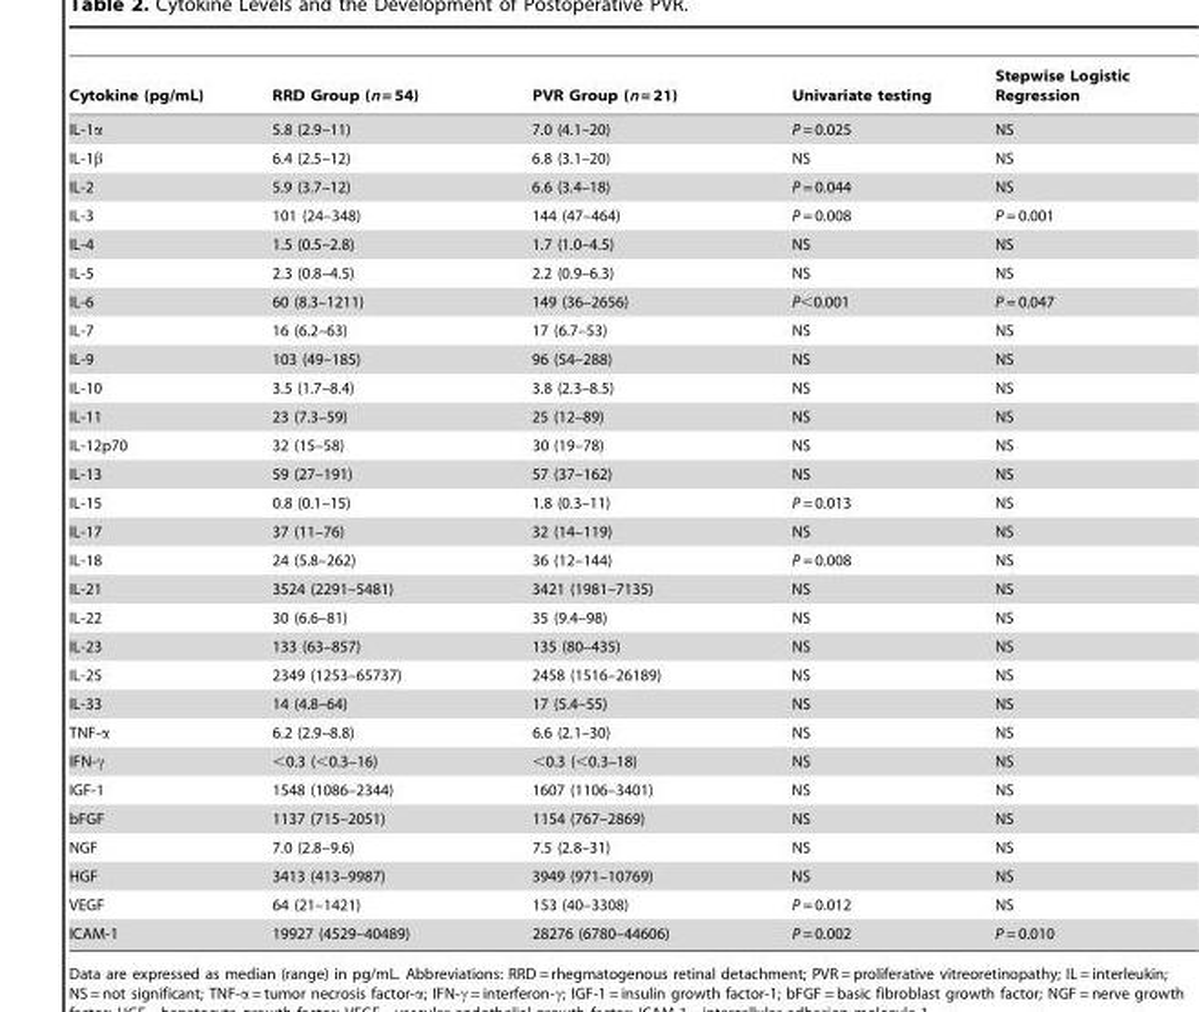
<table><thead><tr><td>Cytokine (pg/mL)</td><td>RRD Group (n = 54)</td><td>PVR Group (n = 21)</td><td>Univariate testing</td><td>Stepwise Logistic Regression</td></tr></thead><tbody><tr><td>IL-1α</td><td>5.8 (2.9–11)</td><td>7.0 (4.1–20)</td><td>P = 0.025</td><td>NS</td></tr><tr><td>IL-1β</td><td>6.4 (2.5–12)</td><td>6.8 (3.1–20)</td><td>NS</td><td>NS</td></tr><tr><td>IL-2</td><td>5.9 (3.7–12)</td><td>6.6 (3.4–18)</td><td>P = 0.044</td><td>NS</td></tr><tr><td>IL-3</td><td>101 (24–348)</td><td>144 (47–464)</td><td>P = 0.008</td><td>P = 0.001</td></tr><tr><td>IL-4</td><td>1.5 (0.5–2.8)</td><td>1.7 (1.0–4.5)</td><td>NS</td><td>NS</td></tr><tr><td>IL-5</td><td>2.3 (0.8–4.5)</td><td>2.2 (0.9–6.3)</td><td>NS</td><td>NS</td></tr><tr><td>IL-6</td><td>60 (8.3–1211)</td><td>149 (36–2656)</td><td>P&lt;0.001</td><td>P = 0.047</td></tr><tr><td>IL-7</td><td>16 (6.2–63)</td><td>17 (6.7–53)</td><td>NS</td><td>NS</td></tr><tr><td>IL-9</td><td>103 (49–185)</td><td>96 (54–288)</td><td>NS</td><td>NS</td></tr><tr><td>IL-10</td><td>3.5 (1.7–8.4)</td><td>3.8 (2.3–8.5)</td><td>NS</td><td>NS</td></tr><tr><td>IL-11</td><td>23 (7.3–59)</td><td>25 (12–89)</td><td>NS</td><td>NS</td></tr><tr><td>IL-12p70</td><td>32 (15–58)</td><td>30 (19–78)</td><td>NS</td><td>NS</td></tr><tr><td>IL-13</td><td>59 (27–191)</td><td>57 (37–162)</td><td>NS</td><td>NS</td></tr><tr><td>IL-15</td><td>0.8 (0.1–15)</td><td>1.8 (0.3–11)</td><td>P = 0.013</td><td>NS</td></tr><tr><td>IL-17</td><td>37 (11–76)</td><td>32 (14–119)</td><td>NS</td><td>NS</td></tr><tr><td>IL-18</td><td>24 (5.8–262)</td><td>36 (12–144)</td><td>P = 0.008</td><td>NS</td></tr><tr><td>IL-21</td><td>3524 (2291–5481)</td><td>3421 (1981–7135)</td><td>NS</td><td>NS</td></tr><tr><td>IL-22</td><td>30 (6.6–81)</td><td>35 (9.4–98)</td><td>NS</td><td>NS</td></tr><tr><td>IL-23</td><td>133 (63–857)</td><td>135 (80–435)</td><td>NS</td><td>NS</td></tr><tr><td>IL-25</td><td>2349 (1253–65737)</td><td>2458 (1516–26189)</td><td>NS</td><td>NS</td></tr><tr><td>IL-33</td><td>14 (4.8–64)</td><td>17 (5.4–55)</td><td>NS</td><td>NS</td></tr><tr><td>TNF-α</td><td>6.2 (2.9–8.8)</td><td>6.6 (2.1–30)</td><td>NS</td><td>NS</td></tr><tr><td>IFN-γ</td><td>&lt;0.3 (&lt;0.3–16)</td><td>&lt;0.3 (&lt;0.3–18)</td><td>NS</td><td>NS</td></tr><tr><td>IGF-1</td><td>1548 (1086–2344)</td><td>1607 (1106–3401)</td><td>NS</td><td>NS</td></tr><tr><td>bFGF</td><td>1137 (715–2051)</td><td>1154 (767–2869)</td><td>NS</td><td>NS</td></tr><tr><td>NGF</td><td>7.0 (2.8–9.6)</td><td>7.5 (2.8–31)</td><td>NS</td><td>NS</td></tr><tr><td>HGF</td><td>3413 (413–9987)</td><td>3949 (971–10769)</td><td>NS</td><td>NS</td></tr><tr><td>VEGF</td><td>64 (21–1421)</td><td>153 (40–3308)</td><td>P = 0.012</td><td>NS</td></tr><tr><td>ICAM-1</td><td>19927 (4529–40489)</td><td>28276 (6780–44606)</td><td>P = 0.002</td><td>P = 0.010</td></tr></tbody></table>